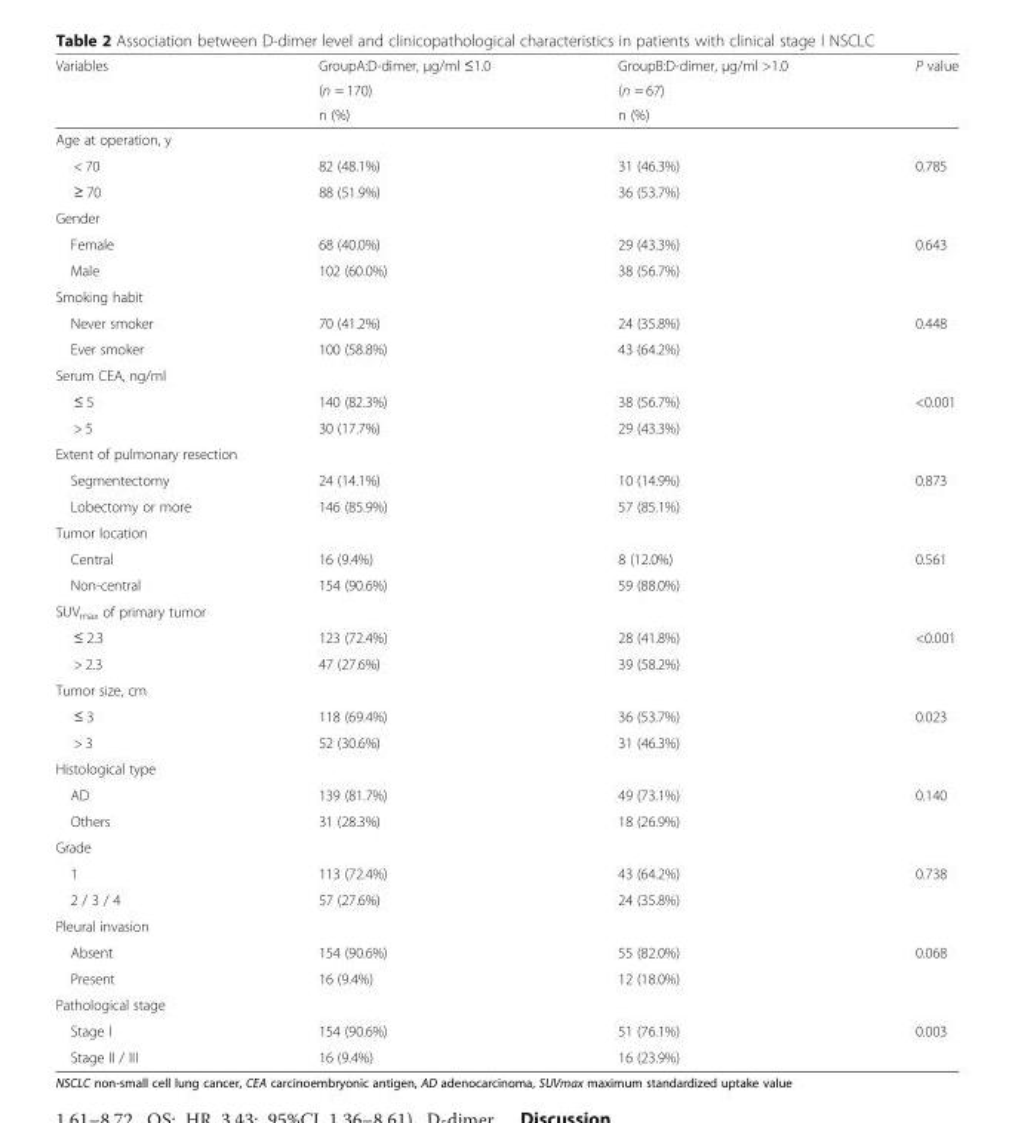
<table><thead><tr><td rowspan="3">Variables</td><td rowspan="3">GroupA:D-dimer, μg/ml ≤1.0 (n = 170) n (%)</td><td rowspan="3">GroupB:D-dimer, μg/ml &gt;1.0 (n = 67) n (%)</td><td rowspan="3">P value</td></tr><tr></tr><tr></tr></thead><tbody><tr><td colspan="4">Age at operation, y</td></tr><tr><td>&lt; 70</td><td>82 (48.1%)</td><td>31 (46.3%)</td><td rowspan="2">0.785</td></tr><tr><td>≥ 70</td><td>88 (51.9%)</td><td>36 (53.7%)</td></tr><tr><td colspan="4">Gender</td></tr><tr><td>Female</td><td>68 (40.0%)</td><td>29 (43.3%)</td><td rowspan="2">0.643</td></tr><tr><td>Male</td><td>102 (60.0%)</td><td>38 (56.7%)</td></tr><tr><td colspan="4">Smoking habit</td></tr><tr><td>Never smoker</td><td>70 (41.2%)</td><td>24 (35.8%)</td><td rowspan="2">0.448</td></tr><tr><td>Ever smoker</td><td>100 (58.8%)</td><td>43 (64.2%)</td></tr><tr><td colspan="4">Serum CEA, ng/ml</td></tr><tr><td>≤ 5</td><td>140 (82.3%)</td><td>38 (56.7%)</td><td rowspan="2">&lt;0.001</td></tr><tr><td>&gt; 5</td><td>30 (17.7%)</td><td>29 (43.3%)</td></tr><tr><td colspan="4">Extent of pulmonary resection</td></tr><tr><td>Segmentectomy</td><td>24 (14.1%)</td><td>10 (14.9%)</td><td rowspan="2">0.873</td></tr><tr><td>Lobectomy or more</td><td>146 (85.9%)</td><td>57 (85.1%)</td></tr><tr><td colspan="4">Tumor location</td></tr><tr><td>Central</td><td>16 (9.4%)</td><td>8 (12.0%)</td><td rowspan="2">0.561</td></tr><tr><td>Non-central</td><td>154 (90.6%)</td><td>59 (88.0%)</td></tr><tr><td colspan="4">SUV<sub>max</sub> of primary tumor</td></tr><tr><td>≤ 2.3</td><td>123 (72.4%)</td><td>28 (41.8%)</td><td rowspan="2">&lt;0.001</td></tr><tr><td>&gt; 2.3</td><td>47 (27.6%)</td><td>39 (58.2%)</td></tr><tr><td colspan="4">Tumor size, cm</td></tr><tr><td>≤ 3</td><td>118 (69.4%)</td><td>36 (53.7%)</td><td rowspan="2">0.023</td></tr><tr><td>&gt; 3</td><td>52 (30.6%)</td><td>31 (46.3%)</td></tr><tr><td colspan="4">Histological type</td></tr><tr><td>AD</td><td>139 (81.7%)</td><td>49 (73.1%)</td><td rowspan="2">0.140</td></tr><tr><td>Others</td><td>31 (28.3%)</td><td>18 (26.9%)</td></tr><tr><td colspan="4">Grade</td></tr><tr><td>1</td><td>113 (72.4%)</td><td>43 (64.2%)</td><td rowspan="2">0.738</td></tr><tr><td>2 / 3 / 4</td><td>57 (27.6%)</td><td>24 (35.8%)</td></tr><tr><td colspan="4">Pleural invasion</td></tr><tr><td>Absent</td><td>154 (90.6%)</td><td>55 (82.0%)</td><td rowspan="2">0.068</td></tr><tr><td>Present</td><td>16 (9.4%)</td><td>12 (18.0%)</td></tr><tr><td colspan="4">Pathological stage</td></tr><tr><td>Stage I</td><td>154 (90.6%)</td><td>51 (76.1%)</td><td rowspan="2">0.003</td></tr><tr><td>Stage II / III</td><td>16 (9.4%)</td><td>16 (23.9%)</td></tr></tbody></table>